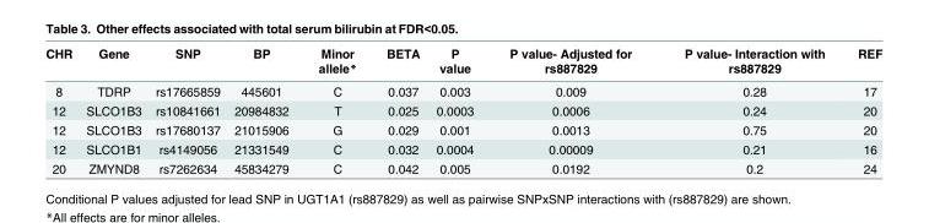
<table><thead><tr><td>CHR</td><td>Gene</td><td>SNP</td><td>BP</td><td>Minor allele*</td><td>BETA</td><td>P value</td><td>P value- Adjusted for rs887829</td><td>P value- Interaction with rs887829</td><td>REF</td></tr></thead><tbody><tr><td>8</td><td>TDRP</td><td>rs17665859</td><td>445601</td><td>C</td><td>0.037</td><td>0.003</td><td>0.009</td><td>0.28</td><td>17</td></tr><tr><td>12</td><td>SLCO1B3</td><td>rs10841661</td><td>20984832</td><td>T</td><td>0.025</td><td>0.0003</td><td>0.0006</td><td>0.24</td><td>20</td></tr><tr><td>12</td><td>SLCO1B3</td><td>rs17680137</td><td>21015906</td><td>G</td><td>0.029</td><td>0.001</td><td>0.0013</td><td>0.75</td><td>20</td></tr><tr><td>12</td><td>SLCO1B1</td><td>rs4149056</td><td>21331549</td><td>C</td><td>0.032</td><td>0.0004</td><td>0.00009</td><td>0.21</td><td>16</td></tr><tr><td>20</td><td>ZMYND8</td><td>rs7262634</td><td>45834279</td><td>C</td><td>0.042</td><td>0.005</td><td>0.0192</td><td>0.2</td><td>24</td></tr></tbody></table>